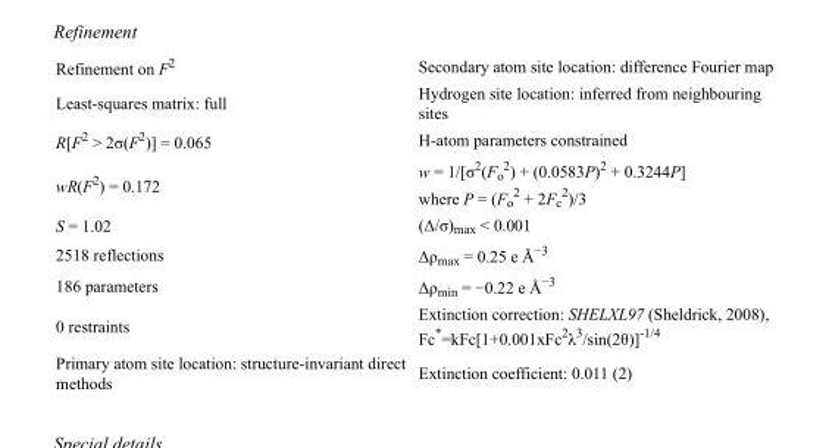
<table><tbody><tr><td>Refinement on F<sup>2</sup></td><td>Secondary atom site location: difference Fourier map</td></tr><tr><td>Least-squares matrix: full</td><td>Hydrogen site location: inferred from neighbouring sites</td></tr><tr><td>R[F<sup>2</sup> &gt; 2σ(F<sup>2</sup>)] = 0.065</td><td>H-atom parameters constrained</td></tr><tr><td>wR(F<sup>2</sup>) = 0.172</td><td>w = 1/[σ<sup>2</sup>(F<sub>o</sub> <sup>2</sup>) + (0.0583P)<sup>2</sup> + 0.3244P] where P = (F<sub>o</sub> <sup>2</sup> + 2F<sub>c</sub> <sup>2</sup>)/3</td></tr><tr><td>S = 1.02</td><td>(Δ/σ)<sub>max</sub> &lt; 0.001</td></tr><tr><td>2518 reflections</td><td>Δρ<sub>max</sub> = 0.25 e Å<sup>−3</sup></td></tr><tr><td>186 parameters</td><td>Δρ<sub>min</sub> = −0.22 e Å<sup>−3</sup></td></tr><tr><td>0 restraints</td><td>Extinction correction: SHELXL97 (Sheldrick, 2008), Fc*=kFc[1+0.001xFc<sup>2</sup>λ<sup>3</sup>/sin(2θ)]<sup>-1/4</sup></td></tr><tr><td>Primary atom site location: structure-invariant direct methods</td><td>Extinction coefficient: 0.011 (2)</td></tr></tbody></table>